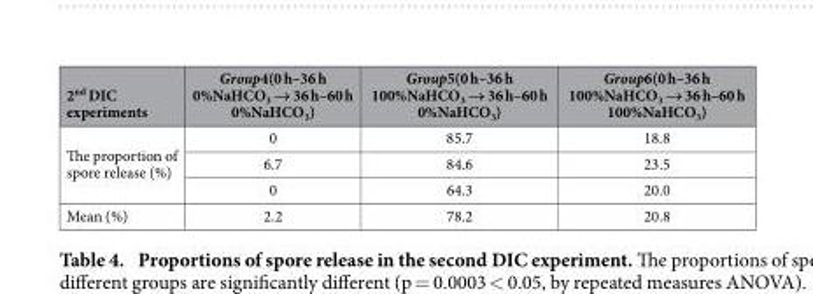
<table><thead><tr><td>2<sup>nd</sup> DIC experiments</td><td>Group4(0 h–36 h 0%NaHCO<sub>3</sub> → 36 h–60 h 0%NaHCO<sub>3</sub>)</td><td>Group5(0 h–36 h 100%NaHCO<sub>3</sub> → 36 h–60 h 0%NaHCO<sub>3</sub>)</td><td>Group6(0 h–36 h 100%NaHCO<sub>3</sub> → 36 h–60 h 100%NaHCO<sub>3</sub>)</td></tr></thead><tbody><tr><td rowspan="3">The proportion of spore release (%)</td><td>0</td><td>85.7</td><td>18.8</td></tr><tr><td>6.7</td><td>84.6</td><td>23.5</td></tr><tr><td>0</td><td>64.3</td><td>20.0</td></tr><tr><td>Mean (%)</td><td>2.2</td><td>78.2</td><td>20.8</td></tr></tbody></table>